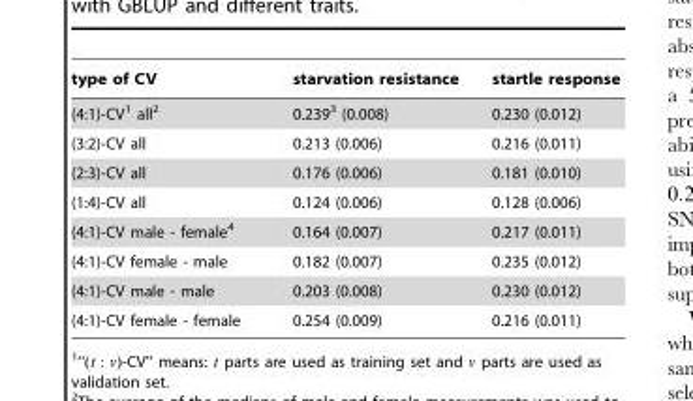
<table><thead><tr><td>type of CV</td><td>starvation resistance</td><td>startle response</td></tr></thead><tbody><tr><td>(4:1)-CV1 all2</td><td>0.239<sup>3</sup> (0.008)</td><td>0.230 (0.012)</td></tr><tr><td>(3:2)-CV all</td><td>0.213 (0.006)</td><td>0.216 (0.011)</td></tr><tr><td>(2:3)-CV all</td><td>0.176 (0.006)</td><td>0.181 (0.010)</td></tr><tr><td>(1:4)-CV all</td><td>0.124 (0.006)</td><td>0.128 (0.006)</td></tr><tr><td>(4:1)-CV male - female4</td><td>0.164 (0.007)</td><td>0.217 (0.011)</td></tr><tr><td>(4:1)-CV female - male</td><td>0.182 (0.007)</td><td>0.235 (0.012)</td></tr><tr><td>(4:1)-CV male - male</td><td>0.203 (0.008)</td><td>0.230 (0.012)</td></tr><tr><td>(4:1)-CV female - female</td><td>0.254 (0.009)</td><td>0.216 (0.011)</td></tr></tbody></table>